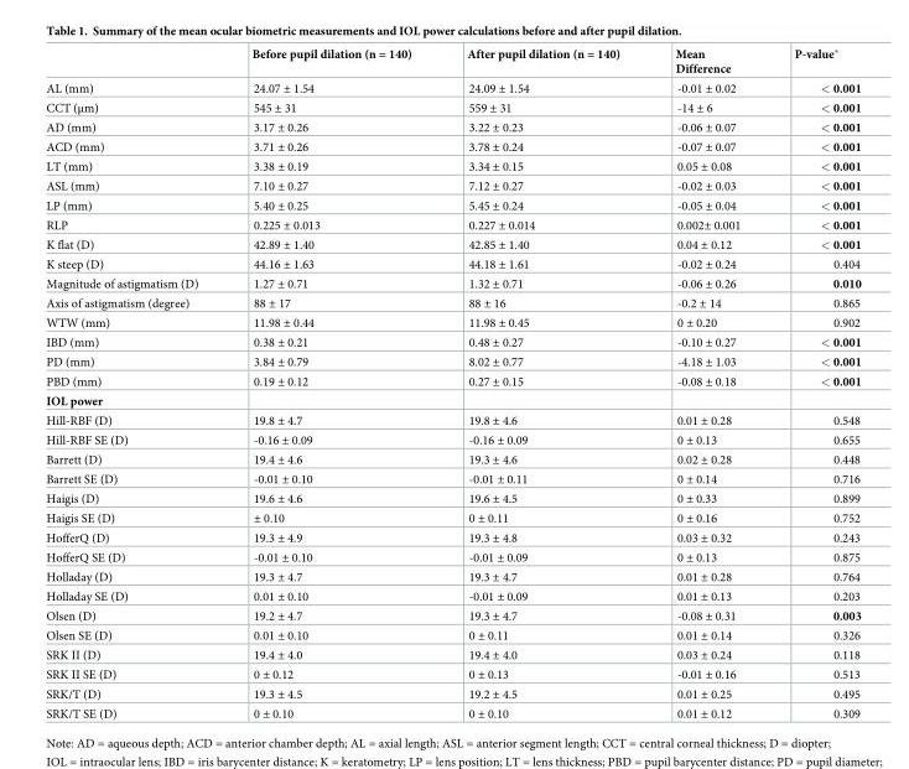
<table><thead><tr><td></td><td>Before pupil dilation (n = 140)</td><td>After pupil dilation (n = 140)</td><td>Mean Difference</td><td>P-value*</td></tr></thead><tbody><tr><td>AL (mm)</td><td>24.07 ± 1.54</td><td>24.09 ± 1.54</td><td>-0.01 ± 0.02</td><td>&lt; 0.001</td></tr><tr><td>CCT (μm)</td><td>545 ± 31</td><td>559 ± 31</td><td>-14 ± 6</td><td>&lt; 0.001</td></tr><tr><td>AD (mm)</td><td>3.17 ± 0.26</td><td>3.22 ± 0.23</td><td>-0.06 ± 0.07</td><td>&lt; 0.001</td></tr><tr><td>ACD (mm)</td><td>3.71 ± 0.26</td><td>3.78 ± 0.24</td><td>-0.07 ± 0.07</td><td>&lt; 0.001</td></tr><tr><td>LT (mm)</td><td>3.38 ± 0.19</td><td>3.34 ± 0.15</td><td>0.05 ± 0.08</td><td>&lt; 0.001</td></tr><tr><td>ASL (mm)</td><td>7.10 ± 0.27</td><td>7.12 ± 0.27</td><td>-0.02 ± 0.03</td><td>&lt; 0.001</td></tr><tr><td>LP (mm)</td><td>5.40 ± 0.25</td><td>5.45 ± 0.24</td><td>-0.05 ± 0.04</td><td>&lt; 0.001</td></tr><tr><td>RLP</td><td>0.225 ± 0.013</td><td>0.227 ± 0.014</td><td>0.002± 0.001</td><td>&lt; 0.001</td></tr><tr><td>K flat (D)</td><td>42.89 ± 1.40</td><td>42.85 ± 1.40</td><td>0.04 ± 0.12</td><td>&lt; 0.001</td></tr><tr><td>K steep (D)</td><td>44.16 ± 1.63</td><td>44.18 ± 1.61</td><td>-0.02 ± 0.24</td><td>0.404</td></tr><tr><td>Magnitude of astigmatism (D)</td><td>1.27 ± 0.71</td><td>1.32 ± 0.71</td><td>-0.06 ± 0.26</td><td>0.010</td></tr><tr><td>Axis of astigmatism (degree)</td><td>88 ± 17</td><td>88 ± 16</td><td>-0.2 ± 14</td><td>0.865</td></tr><tr><td>WTW (mm)</td><td>11.98 ± 0.44</td><td>11.98 ± 0.45</td><td>0 ± 0.20</td><td>0.902</td></tr><tr><td>IBD (mm)</td><td>0.38 ± 0.21</td><td>0.48 ± 0.27</td><td>-0.10 ± 0.27</td><td>&lt; 0.001</td></tr><tr><td>PD (mm)</td><td>3.84 ± 0.79</td><td>8.02 ± 0.77</td><td>-4.18 ± 1.03</td><td>&lt; 0.001</td></tr><tr><td>PBD (mm)</td><td>0.19 ± 0.12</td><td>0.27 ± 0.15</td><td>-0.08 ± 0.18</td><td>&lt; 0.001</td></tr><tr><td colspan="5">IOL power</td></tr><tr><td>Hill-RBF (D)</td><td>19.8 ± 4.7</td><td>19.8 ± 4.6</td><td>0.01 ± 0.28</td><td>0.548</td></tr><tr><td>Hill-RBF SE (D)</td><td>-0.16 ± 0.09</td><td>-0.16 ± 0.09</td><td>0 ± 0.13</td><td>0.655</td></tr><tr><td>Barrett (D)</td><td>19.4 ± 4.6</td><td>19.3 ± 4.6</td><td>0.02 ± 0.28</td><td>0.448</td></tr><tr><td>Barrett SE (D)</td><td>-0.01 ± 0.10</td><td>-0.01 ± 0.11</td><td>0 ± 0.14</td><td>0.716</td></tr><tr><td>Haigis (D)</td><td>19.6 ± 4.6</td><td>19.6 ± 4.5</td><td>0 ± 0.33</td><td>0.899</td></tr><tr><td>Haigis SE (D)</td><td>± 0.10</td><td>0 ± 0.11</td><td>0 ± 0.16</td><td>0.752</td></tr><tr><td>HofferQ (D)</td><td>19.3 ± 4.9</td><td>19.3 ± 4.8</td><td>0.03 ± 0.32</td><td>0.243</td></tr><tr><td>HofferQ SE (D)</td><td>-0.01 ± 0.10</td><td>-0.01 ± 0.09</td><td>0 ± 0.13</td><td>0.875</td></tr><tr><td>Holladay (D)</td><td>19.3 ± 4.7</td><td>19.3 ± 4.7</td><td>0.01 ± 0.28</td><td>0.764</td></tr><tr><td>Holladay SE (D)</td><td>0.01 ± 0.10</td><td>-0.01 ± 0.09</td><td>0.01 ± 0.13</td><td>0.203</td></tr><tr><td>Olsen (D)</td><td>19.2 ± 4.7</td><td>19.3 ± 4.7</td><td>-0.08 ± 0.31</td><td>0.003</td></tr><tr><td>Olsen SE (D)</td><td>0.01 ± 0.10</td><td>0 ± 0.11</td><td>0.01 ± 0.14</td><td>0.326</td></tr><tr><td>SRK II (D)</td><td>19.4 ± 4.0</td><td>19.4 ± 4.0</td><td>0.03 ± 0.24</td><td>0.118</td></tr><tr><td>SRK II SE (D)</td><td>0 ± 0.12</td><td>0 ± 0.13</td><td>-0.01 ± 0.16</td><td>0.513</td></tr><tr><td>SRK/T (D)</td><td>19.3 ± 4.5</td><td>19.2 ± 4.5</td><td>0.01 ± 0.25</td><td>0.495</td></tr><tr><td>SRK/T SE (D)</td><td>0 ± 0.10</td><td>0 ± 0.10</td><td>0.01 ± 0.12</td><td>0.309</td></tr></tbody></table>